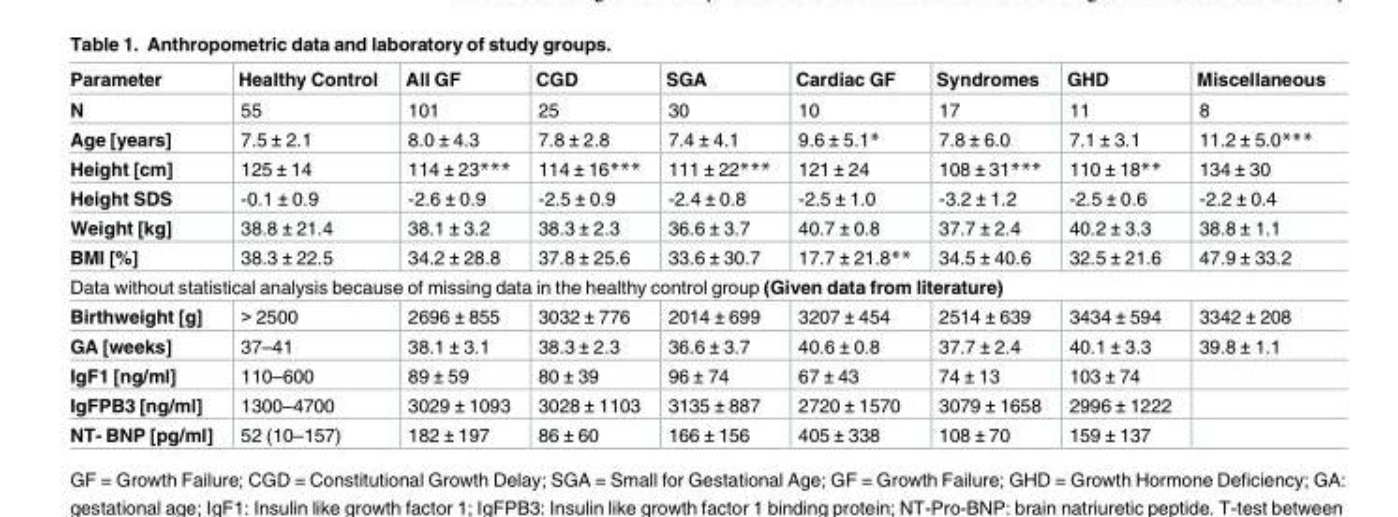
<table><thead><tr><td>Parameter</td><td>Healthy Control</td><td>All GF</td><td>CGD</td><td>SGA</td><td>Cardiac GF</td><td>Syndromes</td><td>GHD</td><td>Miscellaneous</td></tr></thead><tbody><tr><td>N</td><td>55</td><td>101</td><td>25</td><td>30</td><td>10</td><td>17</td><td>11</td><td>8</td></tr><tr><td>Age [years]</td><td>7.5 ± 2.1</td><td>8.0 ± 4.3</td><td>7.8 ± 2.8</td><td>7.4 ± 4.1</td><td>9.6 ± 5.1*</td><td>7.8 ± 6.0</td><td>7.1 ± 3.1</td><td>11.2 ± 5.0***</td></tr><tr><td>Height [cm]</td><td>125 ± 14</td><td>114 ± 23***</td><td>114 ± 16***</td><td>111 ± 22***</td><td>121 ± 24</td><td>108 ± 31***</td><td>110 ± 18**</td><td>134 ± 30</td></tr><tr><td>Height SDS</td><td>-0.1 ± 0.9</td><td>-2.6 ± 0.9</td><td>-2.5 ± 0.9</td><td>-2.4 ± 0.8</td><td>-2.5 ± 1.0</td><td>-3.2 ± 1.2</td><td>-2.5 ± 0.6</td><td>-2.2 ± 0.4</td></tr><tr><td>Weight [kg]</td><td>38.8 ± 21.4</td><td>38.1 ± 3.2</td><td>38.3 ± 2.3</td><td>36.6 ± 3.7</td><td>40.7 ± 0.8</td><td>37.7 ± 2.4</td><td>40.2 ± 3.3</td><td>38.8 ± 1.1</td></tr><tr><td>BMI [%]</td><td>38.3 ± 22.5</td><td>34.2 ± 28.8</td><td>37.8 ± 25.6</td><td>33.6 ± 30.7</td><td>17.7 ± 21.8**</td><td>34.5 ± 40.6</td><td>32.5 ± 21.6</td><td>47.9 ± 33.2</td></tr><tr><td colspan="9">Data without statistical analysis because of missing data in the healthy control group (Given data from literature)</td></tr><tr><td>Birthweight [g]</td><td>&gt; 2500</td><td>2696 ± 855</td><td>3032 ± 776</td><td>2014 ± 699</td><td>3207 ± 454</td><td>2514 ± 639</td><td>3434 ± 594</td><td>3342 ± 208</td></tr><tr><td>GA [weeks]</td><td>37–41</td><td>38.1 ± 3.1</td><td>38.3 ± 2.3</td><td>36.6 ± 3.7</td><td>40.6 ± 0.8</td><td>37.7 ± 2.4</td><td>40.1 ± 3.3</td><td>39.8 ± 1.1</td></tr><tr><td>IgF1 [ng/ml]</td><td>110–600</td><td>89 ± 59</td><td>80 ± 39</td><td>96 ± 74</td><td>67 ± 43</td><td>74 ± 13</td><td>103 ± 74</td><td></td></tr><tr><td>IgFPB3 [ng/ml]</td><td>1300–4700</td><td>3029 ± 1093</td><td>3028 ± 1103</td><td>3135 ± 887</td><td>2720 ± 1570</td><td>3079 ± 1658</td><td>2996 ± 1222</td><td></td></tr><tr><td>NT- BNP [pg/ml]</td><td>52 (10–157)</td><td>182 ± 197</td><td>86 ± 60</td><td>166 ± 156</td><td>405 ± 338</td><td>108 ± 70</td><td>159 ± 137</td><td></td></tr></tbody></table>